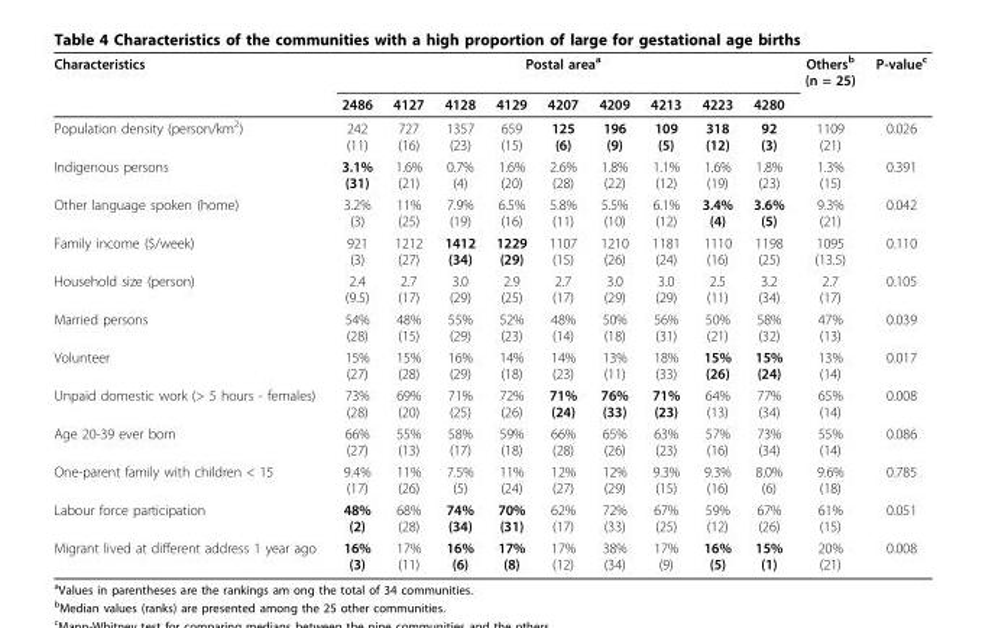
<table><thead><tr><td rowspan="2">Characteristics</td><td colspan="9">Postal area<sup>a</sup></td><td rowspan="2">Others<sup>b</sup> (n = 25)</td><td rowspan="2">P-value<sup>c</sup></td></tr><tr><td>2486</td><td>4127</td><td>4128</td><td>4129</td><td>4207</td><td>4209</td><td>4213</td><td>4223</td><td>4280</td></tr></thead><tbody><tr><td>Population density (person/km<sup>2</sup>)</td><td>242 (11)</td><td>727 (16)</td><td>1357 (23)</td><td>659 (15)</td><td>125 (6)</td><td>196 (9)</td><td>109 (5)</td><td>318 (12)</td><td>92 (3)</td><td>1109 (21)</td><td>0.026</td></tr><tr><td>Indigenous persons</td><td>3.1% (31)</td><td>1.6% (21)</td><td>0.7% (4)</td><td>1.6% (20)</td><td>2.6% (28)</td><td>1.8% (22)</td><td>1.1% (12)</td><td>1.6% (19)</td><td>1.8% (23)</td><td>1.3% (15)</td><td>0.391</td></tr><tr><td>Other language spoken (home)</td><td>3.2% (3)</td><td>11% (25)</td><td>7.9% (19)</td><td>6.5% (16)</td><td>5.8% (11)</td><td>5.5% (10)</td><td>6.1% (12)</td><td>3.4% (4)</td><td>3.6% (5)</td><td>9.3% (21)</td><td>0.042</td></tr><tr><td>Family income ($/week)</td><td>921 (3)</td><td>1212 (27)</td><td>1412 (34)</td><td>1229 (29)</td><td>1107 (15)</td><td>1210 (26)</td><td>1181 (24)</td><td>1110 (16)</td><td>1198 (25)</td><td>1095 (13.5)</td><td>0.110</td></tr><tr><td>Household size (person)</td><td>2.4 (9.5)</td><td>2.7 (17)</td><td>3.0 (29)</td><td>2.9 (25)</td><td>2.7 (17)</td><td>3.0 (29)</td><td>3.0 (29)</td><td>2.5 (11)</td><td>3.2 (34)</td><td>2.7 (17)</td><td>0.105</td></tr><tr><td>Married persons</td><td>54% (28)</td><td>48% (15)</td><td>55% (29)</td><td>52% (23)</td><td>48% (14)</td><td>50% (18)</td><td>56% (31)</td><td>50% (21)</td><td>58% (32)</td><td>47% (13)</td><td>0.039</td></tr><tr><td>Volunteer</td><td>15% (27)</td><td>15% (28)</td><td>16% (29)</td><td>14% (18)</td><td>14% (23)</td><td>13% (11)</td><td>18% (33)</td><td>15% (26)</td><td>15% (24)</td><td>13% (14)</td><td>0.017</td></tr><tr><td>Unpaid domestic work (&gt; 5 hours - females)</td><td>73% (28)</td><td>69% (20)</td><td>71% (25)</td><td>72% (26)</td><td>71% (24)</td><td>76% (33)</td><td>71% (23)</td><td>64% (13)</td><td>77% (34)</td><td>65% (14)</td><td>0.008</td></tr><tr><td>Age 20-39 ever born</td><td>66% (27)</td><td>55% (13)</td><td>58% (17)</td><td>59% (18)</td><td>66% (28)</td><td>65% (26)</td><td>63% (23)</td><td>57% (16)</td><td>73% (34)</td><td>55% (14)</td><td>0.086</td></tr><tr><td>One-parent family with children &lt; 15</td><td>9.4% (17)</td><td>11% (26)</td><td>7.5% (5)</td><td>11% (24)</td><td>12% (27)</td><td>12% (29)</td><td>9.3% (15)</td><td>9.3% (16)</td><td>8.0% (6)</td><td>9.6% (18)</td><td>0.785</td></tr><tr><td>Labour force participation</td><td>48% (2)</td><td>68% (28)</td><td>74% (34)</td><td>70% (31)</td><td>62% (17)</td><td>72% (33)</td><td>67% (25)</td><td>59% (12)</td><td>67% (26)</td><td>61% (15)</td><td>0.051</td></tr><tr><td>Migrant lived at different address 1 year ago</td><td>16% (3)</td><td>17% (11)</td><td>16% (6)</td><td>17% (8)</td><td>17% (12)</td><td>38% (34)</td><td>17% (9)</td><td>16% (5)</td><td>15% (1)</td><td>20% (21)</td><td>0.008</td></tr></tbody></table>